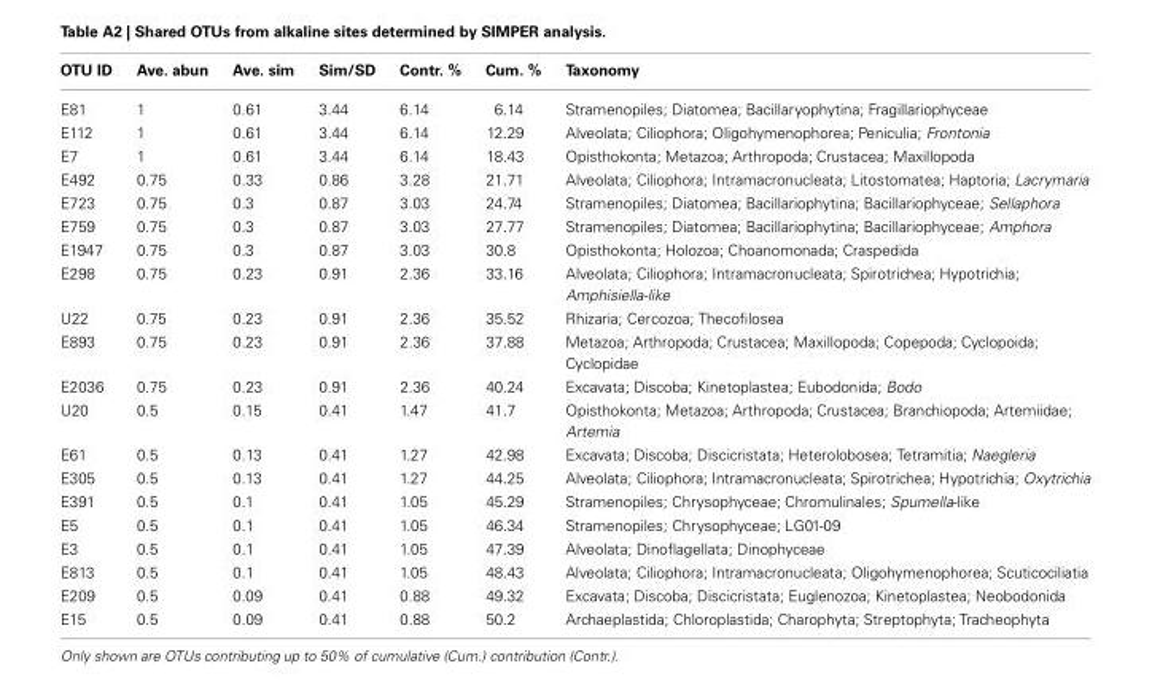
<table><thead><tr><td>OTU ID</td><td>Ave. abun</td><td>Ave. sim</td><td>Sim/SD</td><td>Contr. %</td><td>Cum. %</td><td>Taxonomy</td></tr></thead><tbody><tr><td>E81</td><td>1</td><td>0.61</td><td>3.44</td><td>6.14</td><td>6.14</td><td>Stramenopiles; Diatomea; Bacillaryophytina; Fragillariophyceae</td></tr><tr><td>E112</td><td>1</td><td>0.61</td><td>3.44</td><td>6.14</td><td>12.29</td><td>Alveolata; Ciliophora; Oligohymenophorea; Peniculia; Frontonia</td></tr><tr><td>E7</td><td>1</td><td>0.61</td><td>3.44</td><td>6.14</td><td>18.43</td><td>Opisthokonta; Metazoa; Arthropoda; Crustacea; Maxillopoda</td></tr><tr><td>E492</td><td>0.75</td><td>0.33</td><td>0.86</td><td>3.28</td><td>21.71</td><td>Alveolata; Ciliophora; Intramacronucleata; Litostomatea; Haptoria; Lacrymaria</td></tr><tr><td>E723</td><td>0.75</td><td>0.3</td><td>0.87</td><td>3.03</td><td>24.74</td><td>Stramenopiles; Diatomea; Bacillariophytina; Bacillariophyceae; Sellaphora</td></tr><tr><td>E759</td><td>0.75</td><td>0.3</td><td>0.87</td><td>3.03</td><td>27.77</td><td>Stramenopiles; Diatomea; Bacillariophytina; Bacillariophyceae; Amphora</td></tr><tr><td>E1947</td><td>0.75</td><td>0.3</td><td>0.87</td><td>3.03</td><td>30.8</td><td>Opisthokonta; Holozoa; Choanomonada; Craspedida</td></tr><tr><td>E298</td><td>0.75</td><td>0.23</td><td>0.91</td><td>2.36</td><td>33.16</td><td>Alveolata; Ciliophora; Intramacronucleata; Spirotrichea; Hypotrichia; Amphisiella-like</td></tr><tr><td>U22</td><td>0.75</td><td>0.23</td><td>0.91</td><td>2.36</td><td>35.52</td><td>Rhizaria; Cercozoa; Thecofilosea</td></tr><tr><td>E893</td><td>0.75</td><td>0.23</td><td>0.91</td><td>2.36</td><td>37.88</td><td>Metazoa; Arthropoda; Crustacea; Maxillopoda; Copepoda; Cyclopoida; Cyclopidae</td></tr><tr><td>E2036</td><td>0.75</td><td>0.23</td><td>0.91</td><td>2.36</td><td>40.24</td><td>Excavata; Discoba; Kinetoplastea; Eubodonida; Bodo</td></tr><tr><td>U20</td><td>0.5</td><td>0.15</td><td>0.41</td><td>1.47</td><td>41.7</td><td>Opisthokonta; Metazoa; Arthropoda; Crustacea; Branchiopoda; Artemiidae; Artemia</td></tr><tr><td>E61</td><td>0.5</td><td>0.13</td><td>0.41</td><td>1.27</td><td>42.98</td><td>Excavata; Discoba; Discicristata; Heterolobosea; Tetramitia; Naegleria</td></tr><tr><td>E305</td><td>0.5</td><td>0.13</td><td>0.41</td><td>1.27</td><td>44.25</td><td>Alveolata; Ciliophora; Intramacronucleata; Spirotrichea; Hypotrichia; Oxytrichia</td></tr><tr><td>E391</td><td>0.5</td><td>0.1</td><td>0.41</td><td>1.05</td><td>45.29</td><td>Stramenopiles; Chrysophyceae; Chromulinales; Spumella-like</td></tr><tr><td>E5</td><td>0.5</td><td>0.1</td><td>0.41</td><td>1.05</td><td>46.34</td><td>Stramenopiles; Chrysophyceae; LG01-09</td></tr><tr><td>E3</td><td>0.5</td><td>0.1</td><td>0.41</td><td>1.05</td><td>47.39</td><td>Alveolata; Dinoflagellata; Dinophyceae</td></tr><tr><td>E813</td><td>0.5</td><td>0.1</td><td>0.41</td><td>1.05</td><td>48.43</td><td>Alveolata; Ciliophora; Intramacronucleata; Oligohymenophorea; Scuticociliatia</td></tr><tr><td>E209</td><td>0.5</td><td>0.09</td><td>0.41</td><td>0.88</td><td>49.32</td><td>Excavata; Discoba; Discicristata; Euglenozoa; Kinetoplastea; Neobodonida</td></tr><tr><td>E15</td><td>0.5</td><td>0.09</td><td>0.41</td><td>0.88</td><td>50.2</td><td>Archaeplastida; Chloroplastida; Charophyta; Streptophyta; Tracheophyta</td></tr></tbody></table>